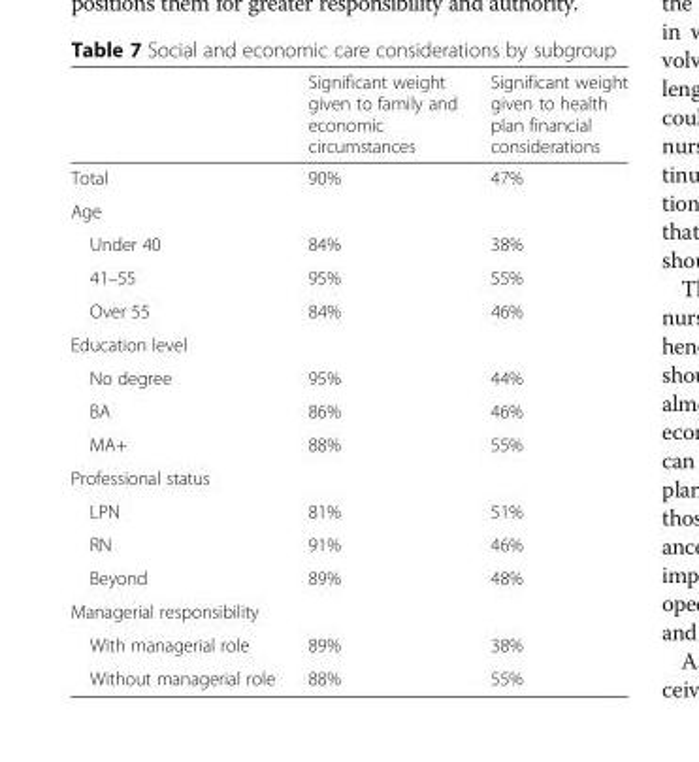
<table><thead><tr><td></td><td>Significant weight given to family and economic circumstances</td><td>Significant weight given to health plan financial considerations</td></tr></thead><tbody><tr><td>Total</td><td>90%</td><td>47%</td></tr><tr><td colspan="3">Age</td></tr><tr><td>Under 40</td><td>84%</td><td>38%</td></tr><tr><td>41–55</td><td>95%</td><td>55%</td></tr><tr><td>Over 55</td><td>84%</td><td>46%</td></tr><tr><td colspan="3">Education level</td></tr><tr><td>No degree</td><td>95%</td><td>44%</td></tr><tr><td>BA</td><td>86%</td><td>46%</td></tr><tr><td>MA+</td><td>88%</td><td>55%</td></tr><tr><td colspan="3">Professional status</td></tr><tr><td>LPN</td><td>81%</td><td>51%</td></tr><tr><td>RN</td><td>91%</td><td>46%</td></tr><tr><td>Beyond</td><td>89%</td><td>48%</td></tr><tr><td colspan="3">Managerial responsibility</td></tr><tr><td>With managerial role</td><td>89%</td><td>38%</td></tr><tr><td>Without managerial role</td><td>88%</td><td>55%</td></tr></tbody></table>